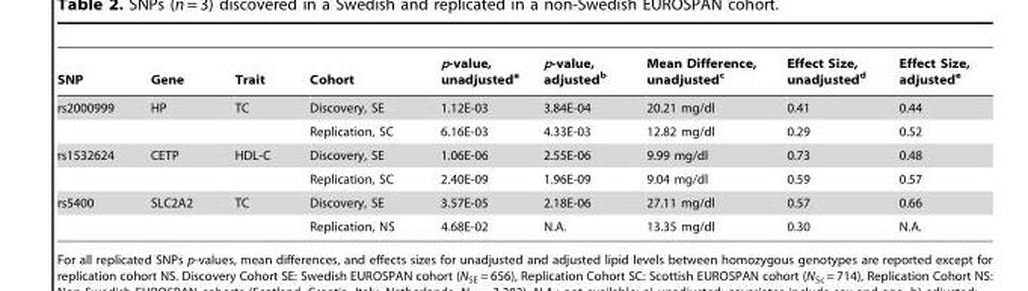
<table><thead><tr><td>SNP</td><td>Gene</td><td>Trait</td><td>Cohort</td><td>p-value, unadjusted<sup>a</sup></td><td>p-value, adjusted<sup>b</sup></td><td>Mean Difference, unadjusted<sup>c</sup></td><td>Effect Size, unadjusted<sup>d</sup></td><td>Effect Size, adjusted<sup>e</sup></td></tr></thead><tbody><tr><td rowspan="2">rs2000999</td><td>HP</td><td>TC</td><td>Discovery, SE</td><td>1.12E-03</td><td>3.84E-04</td><td>20.21 mg/dl</td><td>0.41</td><td>0.44</td></tr><tr><td></td><td></td><td>Replication, SC</td><td>6.16E-03</td><td>4.33E-03</td><td>12.82 mg/dl</td><td>0.29</td><td>0.52</td></tr><tr><td rowspan="2">rs1532624</td><td>CETP</td><td>HDL-C</td><td>Discovery, SE</td><td>1.06E-06</td><td>2.55E-06</td><td>9.99 mg/dl</td><td>0.73</td><td>0.48</td></tr><tr><td></td><td></td><td>Replication, SC</td><td>2.40E-09</td><td>1.96E-09</td><td>9.04 mg/dl</td><td>0.59</td><td>0.57</td></tr><tr><td rowspan="2">rs5400</td><td>SLC2A2</td><td>TC</td><td>Discovery, SE</td><td>3.57E-05</td><td>2.18E-06</td><td>27.11 mg/dl</td><td>0.57</td><td>0.66</td></tr><tr><td></td><td></td><td>Replication, NS</td><td>4.68E-02</td><td>N.A.</td><td>13.35 mg/dl</td><td>0.30</td><td>N.A.</td></tr></tbody></table>